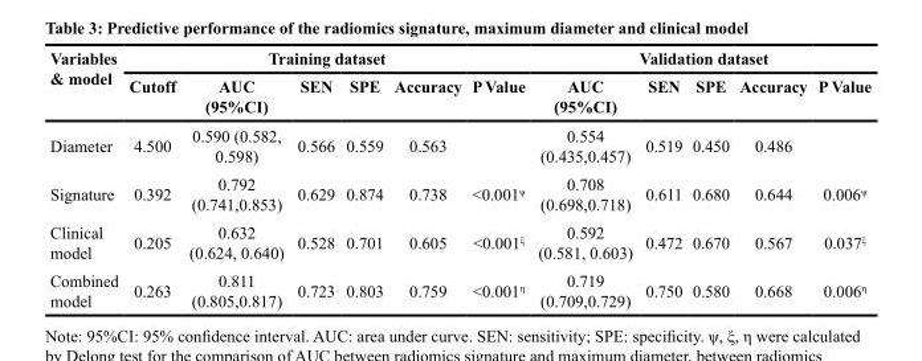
<table><thead><tr><td rowspan="2">Variables &amp; model</td><td colspan="6">Training dataset</td><td colspan="5">Validation dataset</td></tr><tr><td>Cutoff</td><td>AUC (95%CI)</td><td>SEN</td><td>SPE</td><td>Accuracy</td><td>P Value</td><td>AUC (95%CI)</td><td>SEN</td><td>SPE</td><td>Accuracy</td><td>P Value</td></tr></thead><tbody><tr><td>Diameter</td><td>4.500</td><td>0.590 (0.582, 0.598)</td><td>0.566</td><td>0.559</td><td>0.563</td><td></td><td>0.554 (0.435,0.457)</td><td>0.519</td><td>0.450</td><td>0.486</td><td></td></tr><tr><td>Signature</td><td>0.392</td><td>0.792 (0.741,0.853)</td><td>0.629</td><td>0.874</td><td>0.738</td><td>&lt;0.001<sup>ψ</sup></td><td>0.708 (0.698,0.718)</td><td>0.611</td><td>0.680</td><td>0.644</td><td>0.006<sup>ψ</sup></td></tr><tr><td>Clinical model</td><td>0.205</td><td>0.632 (0.624, 0.640)</td><td>0.528</td><td>0.701</td><td>0.605</td><td>&lt;0.001<sup>ξ</sup></td><td>0.592 (0.581, 0.603)</td><td>0.472</td><td>0.670</td><td>0.567</td><td>0.037<sup>ξ</sup></td></tr><tr><td>Combined model</td><td>0.263</td><td>0.811 (0.805,0.817)</td><td>0.723</td><td>0.803</td><td>0.759</td><td>&lt;0.001<sup>η</sup></td><td>0.719 (0.709,0.729)</td><td>0.750</td><td>0.580</td><td>0.668</td><td>0.006<sup>η</sup></td></tr></tbody></table>